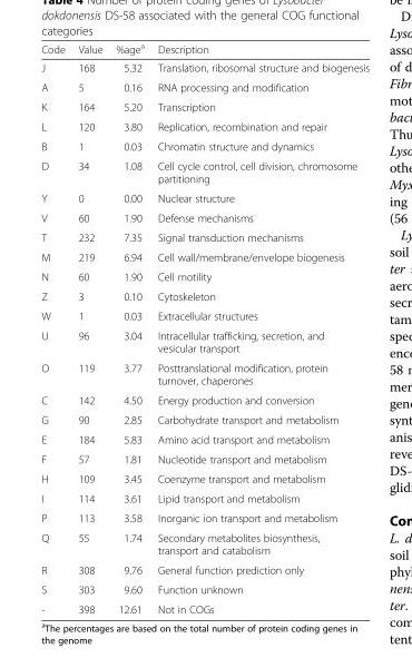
<table><thead><tr><td>Code</td><td>Value</td><td>%age<sup>a</sup></td><td>Description</td></tr></thead><tbody><tr><td>J</td><td>168</td><td>5.32</td><td>Translation, ribosomal structure and biogenesis</td></tr><tr><td>A</td><td>5</td><td>0.16</td><td>RNA processing and modification</td></tr><tr><td>K</td><td>164</td><td>5.20</td><td>Transcription</td></tr><tr><td>L</td><td>120</td><td>3.80</td><td>Replication, recombination and repair</td></tr><tr><td>B</td><td>1</td><td>0.03</td><td>Chromatin structure and dynamics</td></tr><tr><td>D</td><td>34</td><td>1.08</td><td>Cell cycle control, cell division, chromosome partitioning</td></tr><tr><td>Y</td><td>0</td><td>0.00</td><td>Nuclear structure</td></tr><tr><td>V</td><td>60</td><td>1.90</td><td>Defense mechanisms</td></tr><tr><td>T</td><td>232</td><td>7.35</td><td>Signal transduction mechanisms</td></tr><tr><td>M</td><td>219</td><td>6.94</td><td>Cell wall/membrane/envelope biogenesis</td></tr><tr><td>N</td><td>60</td><td>1.90</td><td>Cell motility</td></tr><tr><td>Z</td><td>3</td><td>0.10</td><td>Cytoskeleton</td></tr><tr><td>W</td><td>1</td><td>0.03</td><td>Extracellular structures</td></tr><tr><td>U</td><td>96</td><td>3.04</td><td>Intracellular trafficking, secretion, and vesicular transport</td></tr><tr><td>O</td><td>119</td><td>3.77</td><td>Posttranslational modification, protein turnover, chaperones</td></tr><tr><td>C</td><td>142</td><td>4.50</td><td>Energy production and conversion</td></tr><tr><td>G</td><td>90</td><td>2.85</td><td>Carbohydrate transport and metabolism</td></tr><tr><td>E</td><td>184</td><td>5.83</td><td>Amino acid transport and metabolism</td></tr><tr><td>F</td><td>57</td><td>1.81</td><td>Nucleotide transport and metabolism</td></tr><tr><td>H</td><td>109</td><td>3.45</td><td>Coenzyme transport and metabolism</td></tr><tr><td>I</td><td>114</td><td>3.61</td><td>Lipid transport and metabolism</td></tr><tr><td>P</td><td>113</td><td>3.58</td><td>Inorganic ion transport and metabolism</td></tr><tr><td>Q</td><td>55</td><td>1.74</td><td>Secondary metabolites biosynthesis, transport and catabolism</td></tr><tr><td>R</td><td>308</td><td>9.76</td><td>General function prediction only</td></tr><tr><td>S</td><td>303</td><td>9.60</td><td>Function unknown</td></tr><tr><td>-</td><td>398</td><td>12.61</td><td>Not in COGs</td></tr></tbody></table>